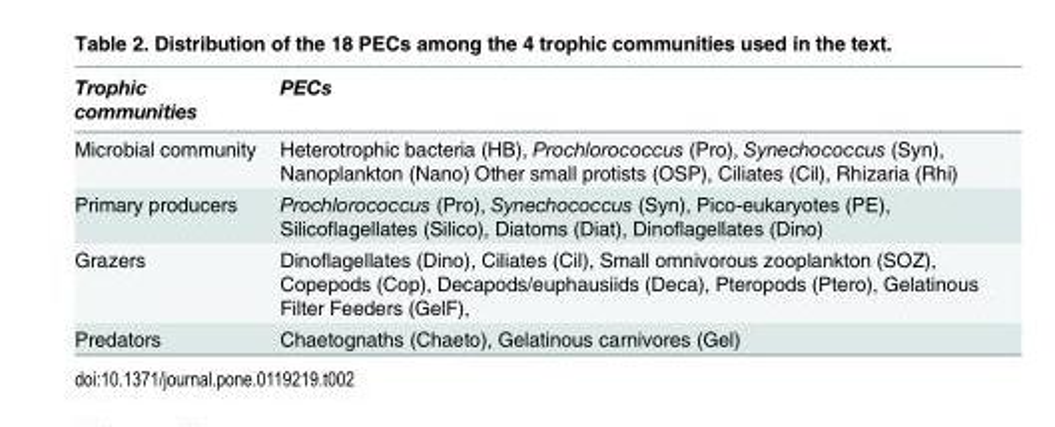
<table><thead><tr><td>Trophic communities</td><td>PECs</td></tr></thead><tbody><tr><td>Microbial community</td><td>Heterotrophic bacteria (HB), Prochlorococcus (Pro), Synechococcus (Syn), Nanoplankton (Nano) Other small protists (OSP), Ciliates (Cil), Rhizaria (Rhi)</td></tr><tr><td>Primary producers</td><td>Prochlorococcus (Pro), Synechococcus (Syn), Pico-eukaryotes (PE), Silicoflagellates (Silico), Diatoms (Diat), Dinoflagellates (Dino)</td></tr><tr><td>Grazers</td><td>Dinoflagellates (Dino), Ciliates (Cil), Small omnivorous zooplankton (SOZ), Copepods (Cop), Decapods/euphausiids (Deca), Pteropods (Ptero), Gelatinous Filter Feeders (GelF),</td></tr><tr><td>Predators</td><td>Chaetognaths (Chaeto), Gelatinous carnivores (Gel)</td></tr></tbody></table>